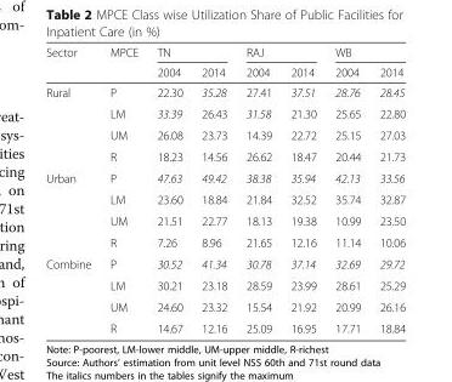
<table><thead><tr><td rowspan="2">Sector</td><td rowspan="2">MPCE</td><td colspan="2">TN</td><td colspan="2">RAJ</td><td colspan="2">WB</td></tr><tr><td>2004</td><td>2014</td><td>2004</td><td>2014</td><td>2004</td><td>2014</td></tr></thead><tbody><tr><td rowspan="4">Rural</td><td>P</td><td>22.30</td><td>35.28</td><td>27.41</td><td>37.51</td><td>28.76</td><td>28.45</td></tr><tr><td>LM</td><td>33.39</td><td>26.43</td><td>31.58</td><td>21.30</td><td>25.65</td><td>22.80</td></tr><tr><td>UM</td><td>26.08</td><td>23.73</td><td>14.39</td><td>22.72</td><td>25.15</td><td>27.03</td></tr><tr><td>R</td><td>18.23</td><td>14.56</td><td>26.62</td><td>18.47</td><td>20.44</td><td>21.73</td></tr><tr><td rowspan="4">Urban</td><td>P</td><td>47.63</td><td>49.42</td><td>38.38</td><td>35.94</td><td>42.13</td><td>33.56</td></tr><tr><td>LM</td><td>23.60</td><td>18.84</td><td>21.84</td><td>32.52</td><td>35.74</td><td>32.87</td></tr><tr><td>UM</td><td>21.51</td><td>22.77</td><td>18.13</td><td>19.38</td><td>10.99</td><td>23.50</td></tr><tr><td>R</td><td>7.26</td><td>8.96</td><td>21.65</td><td>12.16</td><td>11.14</td><td>10.06</td></tr><tr><td rowspan="4">Combine</td><td>P</td><td>30.52</td><td>41.34</td><td>30.78</td><td>37.14</td><td>32.69</td><td>29.72</td></tr><tr><td>LM</td><td>30.21</td><td>23.18</td><td>28.59</td><td>23.99</td><td>28.61</td><td>25.29</td></tr><tr><td>UM</td><td>24.60</td><td>23.32</td><td>15.54</td><td>21.92</td><td>20.99</td><td>26.16</td></tr><tr><td>R</td><td>14.67</td><td>12.16</td><td>25.09</td><td>16.95</td><td>17.71</td><td>18.84</td></tr></tbody></table>